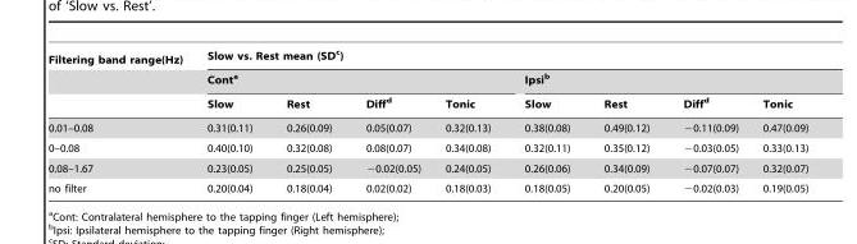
<table><thead><tr><td rowspan="3">Filtering band range(Hz)</td><td colspan="8">Slow vs. Rest mean (SD<sup>c</sup>)</td></tr><tr><td colspan="4">Cont<sup>a</sup></td><td colspan="4">Ipsi<sup>b</sup></td></tr><tr><td>Slow</td><td>Rest</td><td>Diff<sup>d</sup></td><td>Tonic</td><td>Slow</td><td>Rest</td><td>Diff<sup>d</sup></td><td>Tonic</td></tr></thead><tbody><tr><td>0.01–0.08</td><td>0.31(0.11)</td><td>0.26(0.09)</td><td>0.05(0.07)</td><td>0.32(0.13)</td><td>0.38(0.08)</td><td>0.49(0.12)</td><td>−0.11(0.09)</td><td>0.47(0.09)</td></tr><tr><td>0–0.08</td><td>0.40(0.10)</td><td>0.32(0.08)</td><td>0.08(0.07)</td><td>0.34(0.08)</td><td>0.32(0.11)</td><td>0.35(0.12)</td><td>−0.03(0.05)</td><td>0.33(0.13)</td></tr><tr><td>0.08–1.67</td><td>0.23(0.05)</td><td>0.25(0.05)</td><td>−0.02(0.05)</td><td>0.24(0.05)</td><td>0.26(0.06)</td><td>0.34(0.09)</td><td>−0.07(0.07)</td><td>0.32(0.07)</td></tr><tr><td>no filter</td><td>0.20(0.04)</td><td>0.18(0.04)</td><td>0.02(0.02)</td><td>0.18(0.03)</td><td>0.18(0.05)</td><td>0.20(0.05)</td><td>−0.02(0.03)</td><td>0.19(0.05)</td></tr></tbody></table>